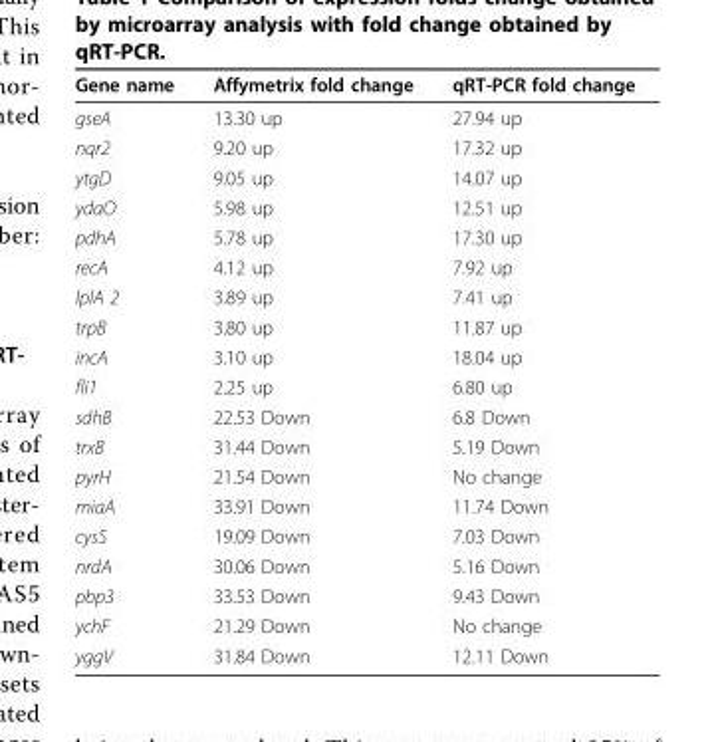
<table><thead><tr><td>Gene name</td><td>Affymetrix fold change</td><td>qRT-PCR fold change</td></tr></thead><tbody><tr><td>gseA</td><td>13.30 up</td><td>27.94 up</td></tr><tr><td>nqr2</td><td>9.20 up</td><td>17.32 up</td></tr><tr><td>ytgD</td><td>9.05 up</td><td>14.07 up</td></tr><tr><td>ydaO</td><td>5.98 up</td><td>12.51 up</td></tr><tr><td>pdhA</td><td>5.78 up</td><td>17.30 up</td></tr><tr><td>recA</td><td>4.12 up</td><td>7.92 up</td></tr><tr><td>lplA 2</td><td>3.89 up</td><td>7.41 up</td></tr><tr><td>trpB</td><td>3.80 up</td><td>11.87 up</td></tr><tr><td>incA</td><td>3.10 up</td><td>18.04 up</td></tr><tr><td>fli1</td><td>2.25 up</td><td>6.80 up</td></tr><tr><td>sdhB</td><td>22.53 Down</td><td>6.8 Down</td></tr><tr><td>trxB</td><td>31.44 Down</td><td>5.19 Down</td></tr><tr><td>pyrH</td><td>21.54 Down</td><td>No change</td></tr><tr><td>miaA</td><td>33.91 Down</td><td>11.74 Down</td></tr><tr><td>cysS</td><td>19.09 Down</td><td>7.03 Down</td></tr><tr><td>nrdA</td><td>30.06 Down</td><td>5.16 Down</td></tr><tr><td>pbp3</td><td>33.53 Down</td><td>9.43 Down</td></tr><tr><td>ychF</td><td>21.29 Down</td><td>No change</td></tr><tr><td>yggV</td><td>31.84 Down</td><td>12.11 Down</td></tr></tbody></table>